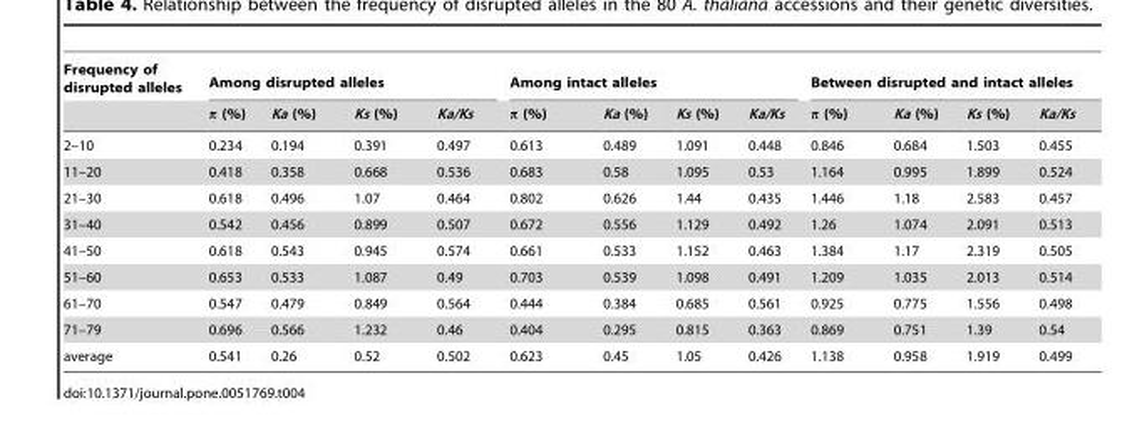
<table><thead><tr><td rowspan="2">Frequency of disrupted alleles</td><td colspan="4">Among disrupted alleles</td><td colspan="4">Among intact alleles</td><td colspan="4">Between disrupted and intact alleles</td></tr><tr><td>π (%)</td><td>Ka (%)</td><td>Ks (%)</td><td>Ka/Ks</td><td>π (%)</td><td>Ka (%)</td><td>Ks (%)</td><td>Ka/Ks</td><td>π (%)</td><td>Ka (%)</td><td>Ks (%)</td><td>Ka/Ks</td></tr></thead><tbody><tr><td>2–10</td><td>0.234</td><td>0.194</td><td>0.391</td><td>0.497</td><td>0.613</td><td>0.489</td><td>1.091</td><td>0.448</td><td>0.846</td><td>0.684</td><td>1.503</td><td>0.455</td></tr><tr><td>11–20</td><td>0.418</td><td>0.358</td><td>0.668</td><td>0.536</td><td>0.683</td><td>0.58</td><td>1.095</td><td>0.53</td><td>1.164</td><td>0.995</td><td>1.899</td><td>0.524</td></tr><tr><td>21–30</td><td>0.618</td><td>0.496</td><td>1.07</td><td>0.464</td><td>0.802</td><td>0.626</td><td>1.44</td><td>0.435</td><td>1.446</td><td>1.18</td><td>2.583</td><td>0.457</td></tr><tr><td>31–40</td><td>0.542</td><td>0.456</td><td>0.899</td><td>0.507</td><td>0.672</td><td>0.556</td><td>1.129</td><td>0.492</td><td>1.26</td><td>1.074</td><td>2.091</td><td>0.513</td></tr><tr><td>41–50</td><td>0.618</td><td>0.543</td><td>0.945</td><td>0.574</td><td>0.661</td><td>0.533</td><td>1.152</td><td>0.463</td><td>1.384</td><td>1.17</td><td>2.319</td><td>0.505</td></tr><tr><td>51–60</td><td>0.653</td><td>0.533</td><td>1.087</td><td>0.49</td><td>0.703</td><td>0.539</td><td>1.098</td><td>0.491</td><td>1.209</td><td>1.035</td><td>2.013</td><td>0.514</td></tr><tr><td>61–70</td><td>0.547</td><td>0.479</td><td>0.849</td><td>0.564</td><td>0.444</td><td>0.384</td><td>0.685</td><td>0.561</td><td>0.925</td><td>0.775</td><td>1.556</td><td>0.498</td></tr><tr><td>71–79</td><td>0.696</td><td>0.566</td><td>1.232</td><td>0.46</td><td>0.404</td><td>0.295</td><td>0.815</td><td>0.363</td><td>0.869</td><td>0.751</td><td>1.39</td><td>0.54</td></tr><tr><td>average</td><td>0.541</td><td>0.26</td><td>0.52</td><td>0.502</td><td>0.623</td><td>0.45</td><td>1.05</td><td>0.426</td><td>1.138</td><td>0.958</td><td>1.919</td><td>0.499</td></tr></tbody></table>